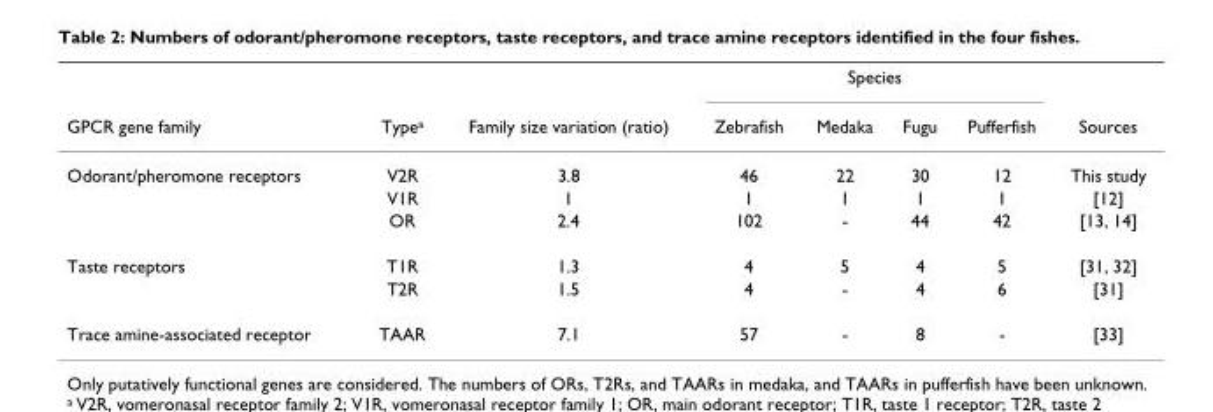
<table><thead><tr><td rowspan="2">GPCR gene family</td><td rowspan="2">Type<sup>a</sup></td><td rowspan="2">Family size variation (ratio)</td><td colspan="4">Species</td><td rowspan="2">Sources</td></tr><tr><td>Zebrafish</td><td>Medaka</td><td>Fugu</td><td>Pufferfish</td></tr></thead><tbody><tr><td rowspan="3">Odorant/pheromone receptors</td><td>V2R</td><td>3.8</td><td>46</td><td>22</td><td>30</td><td>12</td><td>This study</td></tr><tr><td>V1R</td><td>1</td><td>1</td><td>1</td><td>1</td><td>1</td><td>[12]</td></tr><tr><td>OR</td><td>2.4</td><td>102</td><td>-</td><td>44</td><td>42</td><td>[13, 14]</td></tr><tr><td rowspan="2">Taste receptors</td><td>T1R</td><td>1.3</td><td>4</td><td>5</td><td>4</td><td>5</td><td>[31, 32]</td></tr><tr><td>T2R</td><td>1.5</td><td>4</td><td>-</td><td>4</td><td>6</td><td>[31]</td></tr><tr><td>Trace amine-associated receptor</td><td>TAAR</td><td>7.1</td><td>57</td><td>-</td><td>8</td><td>-</td><td>[33]</td></tr></tbody></table>